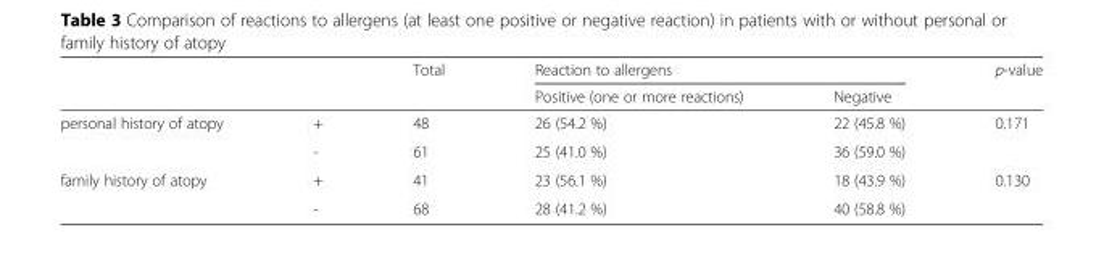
<table><thead><tr><td rowspan="2"></td><td rowspan="2"></td><td rowspan="2">Total</td><td colspan="2">Reaction to allergens</td><td rowspan="2">p-value</td></tr><tr><td>Positive (one or more reactions)</td><td>Negative</td></tr></thead><tbody><tr><td rowspan="2">personal history of atopy</td><td>+</td><td>48</td><td>26 (54.2 %)</td><td>22 (45.8 %)</td><td rowspan="2">0.171</td></tr><tr><td>-</td><td>61</td><td>25 (41.0 %)</td><td>36 (59.0 %)</td></tr><tr><td rowspan="2">family history of atopy</td><td>+</td><td>41</td><td>23 (56.1 %)</td><td>18 (43.9 %)</td><td rowspan="2">0.130</td></tr><tr><td>-</td><td>68</td><td>28 (41.2 %)</td><td>40 (58.8 %)</td></tr></tbody></table>